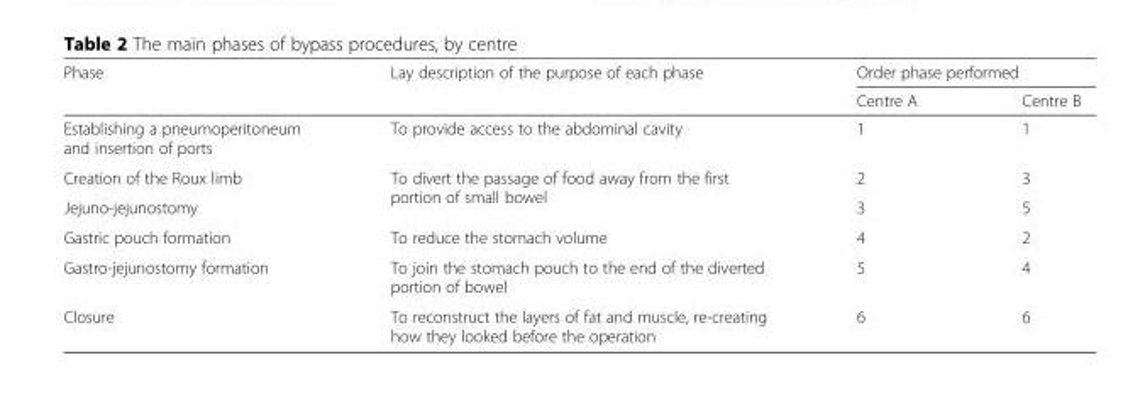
<table><thead><tr><td rowspan="2">Phase</td><td rowspan="2">Lay description of the purpose of each phase</td><td colspan="2">Order phase performed</td></tr><tr><td>Centre A</td><td>Centre B</td></tr></thead><tbody><tr><td>Establishing a pneumoperitoneum and insertion of ports</td><td>To provide access to the abdominal cavity</td><td>1</td><td>1</td></tr><tr><td>Creation of the Roux limb</td><td rowspan="2">To divert the passage of food away from the first portion of small bowel</td><td>2</td><td>3</td></tr><tr><td>Jejuno-jejunostomy</td><td>3</td><td>5</td></tr><tr><td>Gastric pouch formation</td><td>To reduce the stomach volume</td><td>4</td><td>2</td></tr><tr><td>Gastro-jejunostomy formation</td><td>To join the stomach pouch to the end of the diverted portion of bowel</td><td>5</td><td>4</td></tr><tr><td>Closure</td><td>To reconstruct the layers of fat and muscle, re-creating how they looked before the operation</td><td>6</td><td>6</td></tr></tbody></table>